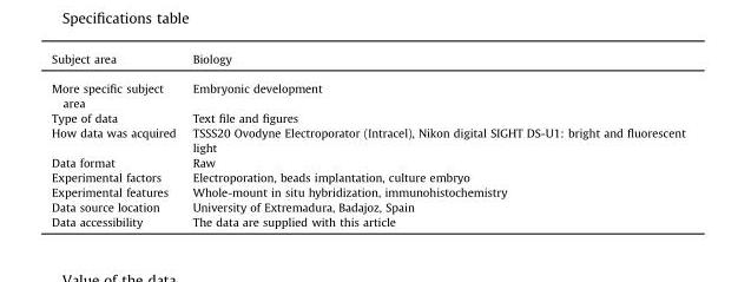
<table><thead><tr><td>Subject area</td><td>Biology</td></tr></thead><tbody><tr><td>More specific subject area</td><td>Embryonic development</td></tr><tr><td>Type of data</td><td>Text file and figures</td></tr><tr><td>How data was acquired</td><td>TSSS20 Ovodyne Electroporator (Intracel), Nikon digital SIGHT DS-U1: bright and fluorescent light</td></tr><tr><td>Data format</td><td>Raw</td></tr><tr><td>Experimental factors</td><td>Electroporation, beads implantation, culture embryo</td></tr><tr><td>Experimental features</td><td>Whole-mount in situ hybridization, immunohistochemistry</td></tr><tr><td>Data source location</td><td>University of Extremadura, Badajoz, Spain</td></tr><tr><td>Data accessibility</td><td>The data are supplied with this article</td></tr></tbody></table>